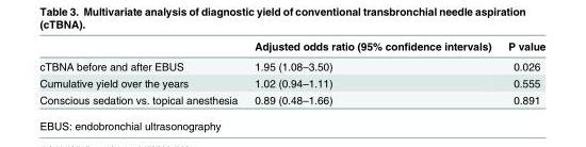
<table><thead><tr><td></td><td>Adjusted odds ratio (95% confidence intervals)</td><td>P value</td></tr></thead><tbody><tr><td>cTBNA before and after EBUS</td><td>1.95 (1.08–3.50)</td><td>0.026</td></tr><tr><td>Cumulative yield over the years</td><td>1.02 (0.94–1.11)</td><td>0.555</td></tr><tr><td>Conscious sedation vs. topical anesthesia</td><td>0.89 (0.48–1.66)</td><td>0.891</td></tr></tbody></table>